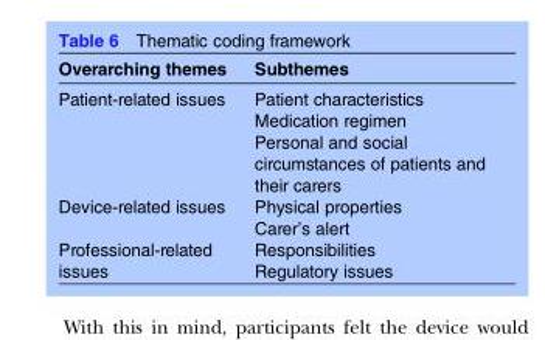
<table><thead><tr><td>Overarching themes</td><td>Subthemes</td></tr></thead><tbody><tr><td>Patient-related issues</td><td>Patient characteristics Medication regimen Personal and social circumstances of patients and their carers</td></tr><tr><td>Device-related issues</td><td>Physical properties Carer’s alert</td></tr><tr><td>Professional-related issues</td><td>Responsibilities Regulatory issues</td></tr></tbody></table>